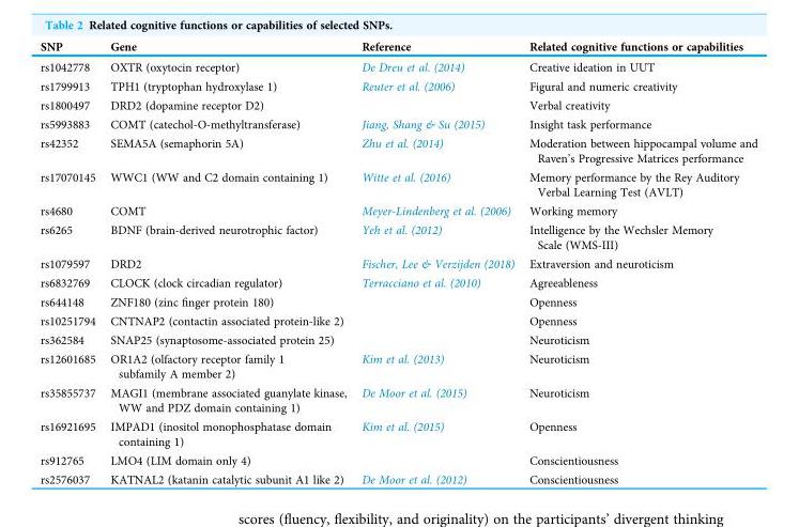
<table><thead><tr><td>SNP</td><td>Gene</td><td>Reference</td><td>Related cognitive functions or capabilities</td></tr></thead><tbody><tr><td>rs1042778</td><td>OXTR (oxytocin receptor)</td><td>De Dreu et al. (2014)</td><td>Creative ideation in UUT</td></tr><tr><td>rs1799913</td><td>TPH1 (tryptophan hydroxylase 1)</td><td rowspan="2">Reuter et al. (2006)</td><td>Figural and numeric creativity</td></tr><tr><td>rs1800497</td><td>DRD2 (dopamine receptor D2)</td><td>Verbal creativity</td></tr><tr><td>rs5993883</td><td>COMT (catechol-O-methyltransferase)</td><td>Jiang, Shang &amp; Su (2015)</td><td>Insight task performance</td></tr><tr><td>rs42352</td><td>SEMA5A (semaphorin 5A)</td><td>Zhu et al. (2014)</td><td>Moderation between hippocampal volume and Raven’s Progressive Matrices performance</td></tr><tr><td>rs17070145</td><td>WWC1 (WW and C2 domain containing 1)</td><td>Witte et al. (2016)</td><td>Memory performance by the Rey Auditory Verbal Learning Test (AVLT)</td></tr><tr><td>rs4680</td><td>COMT</td><td>Meyer-Lindenberg et al. (2006)</td><td>Working memory</td></tr><tr><td>rs6265</td><td>BDNF (brain-derived neurotrophic factor)</td><td>Yeh et al. (2012)</td><td>Intelligence by the Wechsler Memory Scale (WMS-III)</td></tr><tr><td>rs1079597</td><td>DRD2</td><td>Fischer, Lee &amp; Verzijden (2018)</td><td>Extraversion and neuroticism</td></tr><tr><td>rs6832769</td><td>CLOCK (clock circadian regulator)</td><td rowspan="4">Terracciano et al. (2010)</td><td>Agreeableness</td></tr><tr><td>rs644148</td><td>ZNF180 (zinc finger protein 180)</td><td>Openness</td></tr><tr><td>rs10251794</td><td>CNTNAP2 (contactin associated protein-like 2)</td><td>Openness</td></tr><tr><td>rs362584</td><td>SNAP25 (synaptosome-associated protein 25)</td><td>Neuroticism</td></tr><tr><td>rs12601685</td><td>OR1A2 (olfactory receptor family 1 subfamily A member 2)</td><td>Kim et al. (2013)</td><td>Neuroticism</td></tr><tr><td>rs35855737</td><td>MAGI1 (membrane associated guanylate kinase, WW and PDZ domain containing 1)</td><td>De Moor et al. (2015)</td><td>Neuroticism</td></tr><tr><td>rs16921695</td><td>IMPAD1 (inositol monophosphatase domain containing 1)</td><td rowspan="2">Kim et al. (2015)</td><td>Openness</td></tr><tr><td>rs912765</td><td>LMO4 (LIM domain only 4)</td><td>Conscientiousness</td></tr><tr><td>rs2576037</td><td>KATNAL2 (katanin catalytic subunit A1 like 2)</td><td>De Moor et al. (2012)</td><td>Conscientiousness</td></tr></tbody></table>